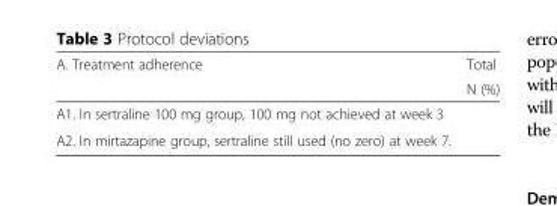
<table><thead><tr><td rowspan="2">A. Treatment adherence</td><td rowspan="2">Total N (%)</td></tr><tr></tr></thead><tbody><tr><td colspan="2">A1. In sertraline 100 mg group, 100 mg not achieved at week 3</td></tr><tr><td>A2. In mirtazapine group, sertraline still used (no zero) at week 7.</td><td></td></tr></tbody></table>